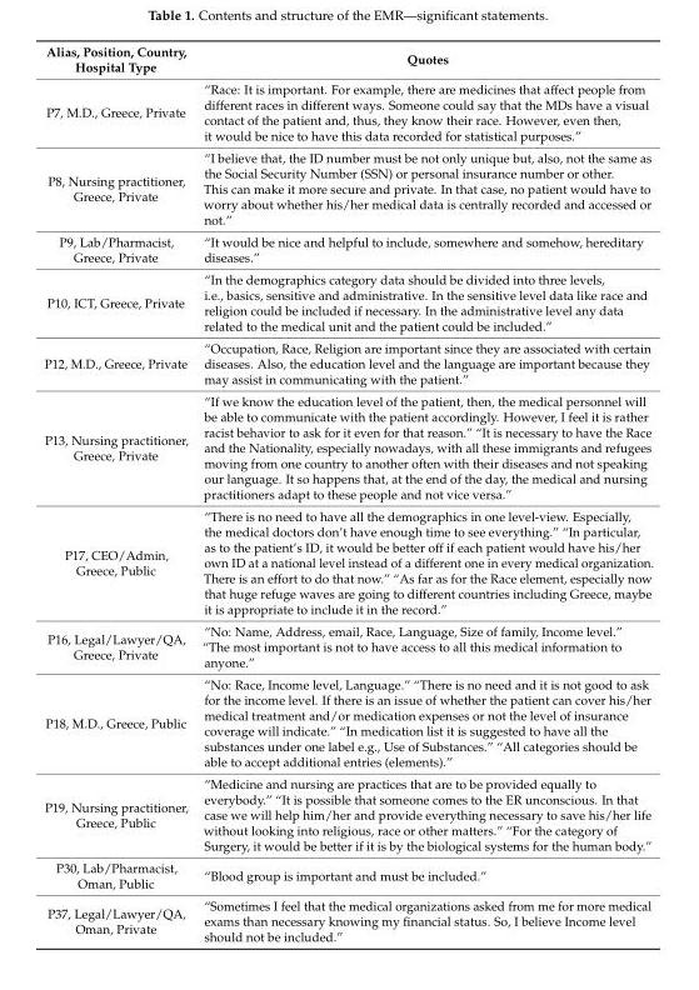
<table><thead><tr><td>Alias, Position, Country, Hospital Type</td><td>Quotes</td></tr></thead><tbody><tr><td>P7, M.D., Greece, Private</td><td>“Race: It is important. For example, there are medicines that affect people from different races in different ways. Someone could say that the MDs have a visual contact of the patient and, thus, they know their race. However, even then, it would be nice to have this data recorded for statistical purposes.”</td></tr><tr><td>P8, Nursing practitioner, Greece, Private</td><td>“I believe that, the ID number must be not only unique but, also, not the same as the Social Security Number (SSN) or personal insurance number or other. This can make it more secure and private. In that case, no patient would have to worry about whether his/her medical data is centrally recorded and accessed or not.”</td></tr><tr><td>P9, Lab/Pharmacist, Greece, Private</td><td>“It would be nice and helpful to include, somewhere and somehow, hereditary diseases.”</td></tr><tr><td>P10, ICT, Greece, Private</td><td>“In the demographics category data should be divided into three levels, i.e., basics, sensitive and administrative. In the sensitive level data like race and religion could be included if necessary. In the administrative level any data related to the medical unit and the patient could be included.”</td></tr><tr><td>P12, M.D., Greece, Private</td><td>“Occupation, Race, Religion are important since they are associated with certain diseases. Also, the education level and the language are important because they may assist in communicating with the patient.”</td></tr><tr><td>P13, Nursing practitioner, Greece, Private</td><td>“If we know the education level of the patient, then, the medical personnel will be able to communicate with the patient accordingly. However, I feel it is rather racist behavior to ask for it even for that reason.” “It is necessary to have the Race and the Nationality, especially nowadays, with all these immigrants and refugees moving from one country to another often with their diseases and not speaking our language. It so happens that, at the end of the day, the medical and nursing practitioners adapt to these people and not vice versa.”</td></tr><tr><td>P17, CEO/Admin, Greece, Public</td><td>“There is no need to have all the demographics in one level-view. Especially, the medical doctors don’t have enough time to see everything.” “In particular, as to the patient’s ID, it would be better off if each patient would have his/her own ID at a national level instead of a different one in every medical organization. There is an effort to do that now.” “As far as for the Race element, especially now that huge refuge waves are going to different countries including Greece, maybe it is appropriate to include it in the record.”</td></tr><tr><td>P16, Legal/Lawyer/QA, Greece, Private</td><td>“No: Name, Address, email, Race, Language, Size of family, Income level.” “The most important is not to have access to all this medical information to anyone.”</td></tr><tr><td>P18, M.D., Greece, Public</td><td>“No: Race, Income level, Language.” “There is no need and it is not good to ask for the income level. If there is an issue of whether the patient can cover his/her medical treatment and/or medication expenses or not the level of insurance coverage will indicate.” “In medication list it is suggested to have all the substances under one label e.g., Use of Substances.” “All categories should be able to accept additional entries (elements).”</td></tr><tr><td>P19, Nursing practitioner, Greece, Public</td><td>“Medicine and nursing are practices that are to be provided equally to everybody.” “It is possible that someone comes to the ER unconscious. In that case we will help him/her and provide everything necessary to save his/her life without looking into religious, race or other matters.” “For the category of Surgery, it would be better if it is by the biological systems for the human body.”</td></tr><tr><td>P30, Lab/Pharmacist, Oman, Public</td><td>“Blood group is important and must be included.”</td></tr><tr><td>P37, Legal/Lawyer/QA, Oman, Private</td><td>“Sometimes I feel that the medical organizations asked from me for more medical exams than necessary knowing my financial status. So, I believe Income level should not be included.”</td></tr></tbody></table>